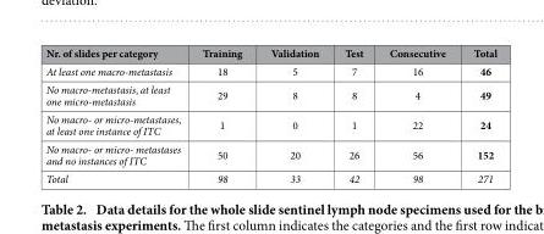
<table><thead><tr><td>Nr. of slides per category</td><td>Training</td><td>Validation</td><td>Test</td><td>Consecutive</td><td>Total</td></tr></thead><tbody><tr><td>At least one macro-metastasis</td><td>18</td><td>5</td><td>7</td><td>16</td><td>46</td></tr><tr><td>No macro-metastasis, at least one micro-metastasis</td><td>29</td><td>8</td><td>8</td><td>4</td><td>49</td></tr><tr><td>No macro- or micro-metastases, at least one instance of ITC</td><td>1</td><td>0</td><td>1</td><td>22</td><td>24</td></tr><tr><td>No macro- or micro- metastases and no instances of ITC</td><td>50</td><td>20</td><td>26</td><td>56</td><td>152</td></tr><tr><td>Total</td><td>98</td><td>33</td><td>42</td><td>98</td><td>271</td></tr></tbody></table>